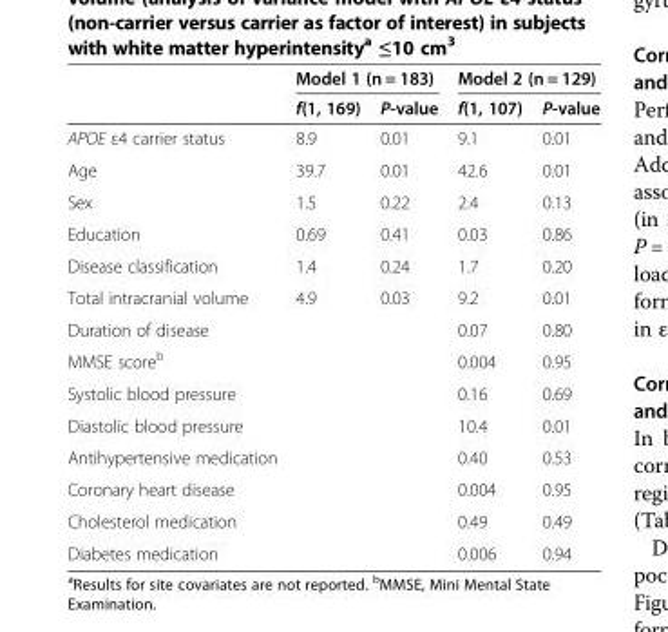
<table><thead><tr><td rowspan="2"></td><td colspan="2">Model 1 (n = 183)</td><td colspan="2">Model 2 (n = 129)</td></tr><tr><td>f(1, 169)</td><td>P-value</td><td>f(1, 107)</td><td>P-value</td></tr></thead><tbody><tr><td>APOE ε4 carrier status</td><td>8.9</td><td>0.01</td><td>9.1</td><td>0.01</td></tr><tr><td>Age</td><td>39.7</td><td>0.01</td><td>42.6</td><td>0.01</td></tr><tr><td>Sex</td><td>1.5</td><td>0.22</td><td>2.4</td><td>0.13</td></tr><tr><td>Education</td><td>0.69</td><td>0.41</td><td>0.03</td><td>0.86</td></tr><tr><td>Disease classification</td><td>1.4</td><td>0.24</td><td>1.7</td><td>0.20</td></tr><tr><td>Total intracranial volume</td><td>4.9</td><td>0.03</td><td>9.2</td><td>0.01</td></tr><tr><td>Duration of disease</td><td></td><td></td><td>0.07</td><td>0.80</td></tr><tr><td>MMSE score<sup>b</sup></td><td></td><td></td><td>0.004</td><td>0.95</td></tr><tr><td>Systolic blood pressure</td><td></td><td></td><td>0.16</td><td>0.69</td></tr><tr><td>Diastolic blood pressure</td><td></td><td></td><td>10.4</td><td>0.01</td></tr><tr><td>Antihypertensive medication</td><td></td><td></td><td>0.40</td><td>0.53</td></tr><tr><td>Coronary heart disease</td><td></td><td></td><td>0.004</td><td>0.95</td></tr><tr><td>Cholesterol medication</td><td></td><td></td><td>0.49</td><td>0.49</td></tr><tr><td>Diabetes medication</td><td></td><td></td><td>0.006</td><td>0.94</td></tr></tbody></table>